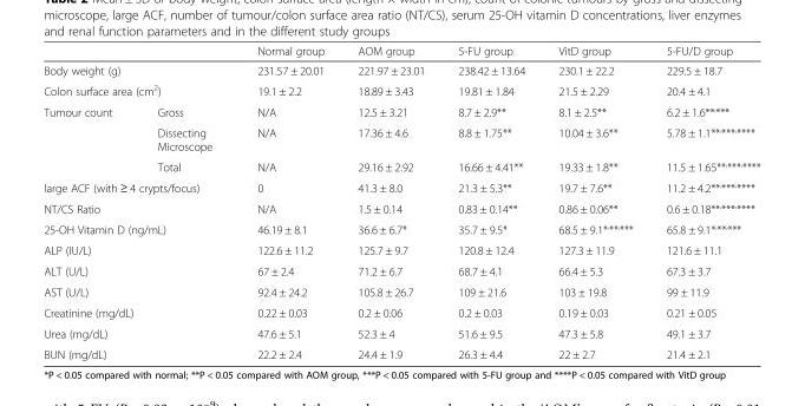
<table><thead><tr><td></td><td></td><td>Normal group</td><td>AOM group</td><td>5-FU group</td><td>VitD group</td><td>5-FU/D group</td></tr></thead><tbody><tr><td colspan="2">Body weight (g)</td><td>231.57 ± 20.01</td><td>221.97 ± 23.01</td><td>238.42 ± 13.64</td><td>230.1 ± 22.2</td><td>229.5 ± 18.7</td></tr><tr><td colspan="2">Colon surface area (cm<sup>2</sup>)</td><td>19.1 ± 2.2</td><td>18.89 ± 3.43</td><td>19.81 ± 1.84</td><td>21.5 ± 2.29</td><td>20.4 ± 4.1</td></tr><tr><td rowspan="3">Tumour count</td><td>Gross</td><td>N/A</td><td>12.5 ± 3.21</td><td>8.7 ± 2.9**</td><td>8.1 ± 2.5**</td><td>6.2 ± 1.6**<sup>,</sup>***</td></tr><tr><td>Dissecting Microscope</td><td>N/A</td><td>17.36 ± 4.6</td><td>8.8 ± 1.75**</td><td>10.04 ± 3.6**</td><td>5.78 ± 1.1**<sup>,</sup>***<sup>,</sup>****</td></tr><tr><td>Total</td><td>N/A</td><td>29.16 ± 2.92</td><td>16.66 ± 4.41**</td><td>19.33 ± 1.8**</td><td>11.5 ± 1.65**<sup>,</sup>***<sup>,</sup>****</td></tr><tr><td colspan="2">large ACF (with ≥ 4 crypts/focus)</td><td>0</td><td>41.3 ± 8.0</td><td>21.3 ± 5.3**</td><td>19.7 ± 7.6**</td><td>11.2 ± 4.2**<sup>,</sup>***<sup>,</sup>****</td></tr><tr><td colspan="2">NT/CS Ratio</td><td>N/A</td><td>1.5 ± 0.14</td><td>0.83 ± 0.14**</td><td>0.86 ± 0.06**</td><td>0.6 ± 0.18**<sup>,</sup>***<sup>,</sup>****</td></tr><tr><td colspan="2">25-OH Vitamin D (ng/mL)</td><td>46.19 ± 8.1</td><td>36.6 ± 6.7*</td><td>35.7 ± 9.5*</td><td>68.5 ± 9.1*<sup>,</sup>**<sup>,</sup>***</td><td>65.8 ± 9.1*<sup>,</sup>**<sup>,</sup>***</td></tr><tr><td colspan="2">ALP (IU/L)</td><td>122.6 ± 11.2</td><td>125.7 ± 9.7</td><td>120.8 ± 12.4</td><td>127.3 ± 11.9</td><td>121.6 ± 11.1</td></tr><tr><td colspan="2">ALT (U/L)</td><td>67 ± 2.4</td><td>71.2 ± 6.7</td><td>68.7 ± 4.1</td><td>66.4 ± 5.3</td><td>67.3 ± 3.7</td></tr><tr><td colspan="2">AST (U/L)</td><td>92.4 ± 24.2</td><td>105.8 ± 26.7</td><td>109 ± 21.6</td><td>103 ± 19.8</td><td>99 ± 11.9</td></tr><tr><td colspan="2">Creatinine (mg/dL)</td><td>0.22 ± 0.03</td><td>0.2 ± 0.06</td><td>0.2 ± 0.03</td><td>0.19 ± 0.03</td><td>0.21 ± 0.05</td></tr><tr><td colspan="2">Urea (mg/dL)</td><td>47.6 ± 5.1</td><td>52.3 ± 4</td><td>51.6 ± 9.5</td><td>47.3 ± 5.8</td><td>49.1 ± 3.7</td></tr><tr><td colspan="2">BUN (mg/dL)</td><td>22.2 ± 2.4</td><td>24.4 ± 1.9</td><td>26.3 ± 4.4</td><td>22 ± 2.7</td><td>21.4 ± 2.1</td></tr></tbody></table>